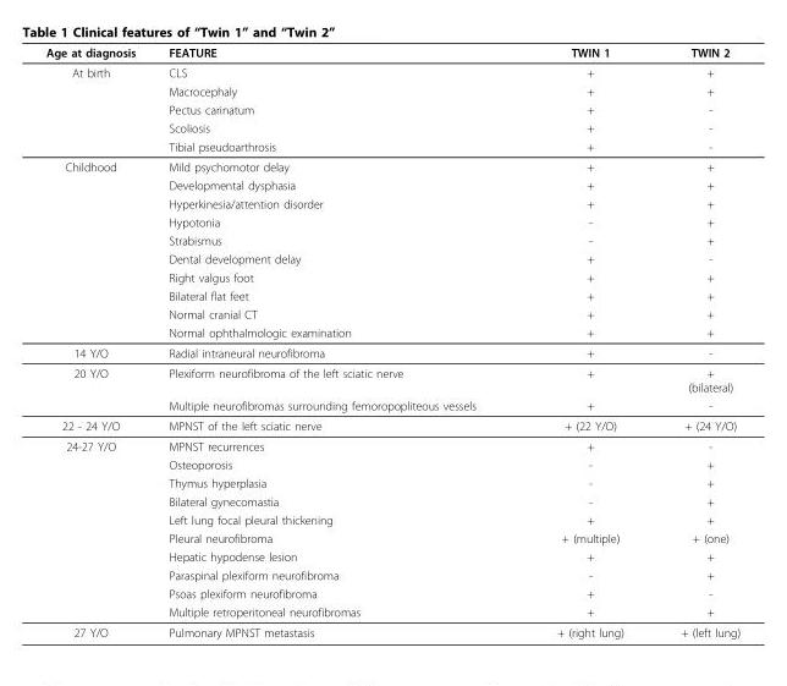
<table><thead><tr><td>Age at diagnosis</td><td>FEATURE</td><td>TWIN 1</td><td>TWIN 2</td></tr></thead><tbody><tr><td rowspan="5">At birth</td><td>CLS</td><td>+</td><td>+</td></tr><tr><td>Macrocephaly</td><td>+</td><td>+</td></tr><tr><td>Pectus carinatum</td><td>+</td><td>-</td></tr><tr><td>Scoliosis</td><td>+</td><td>-</td></tr><tr><td>Tibial pseudoarthrosis</td><td>+</td><td>-</td></tr><tr><td rowspan="10">Childhood</td><td>Mild psychomotor delay</td><td>+</td><td>+</td></tr><tr><td>Developmental dysphasia</td><td>+</td><td>+</td></tr><tr><td>Hyperkinesia/attention disorder</td><td>+</td><td>+</td></tr><tr><td>Hypotonia</td><td>-</td><td>+</td></tr><tr><td>Strabismus</td><td>-</td><td>+</td></tr><tr><td>Dental development delay</td><td>+</td><td>-</td></tr><tr><td>Right valgus foot</td><td>+</td><td>+</td></tr><tr><td>Bilateral flat feet</td><td>+</td><td>+</td></tr><tr><td>Normal cranial CT</td><td>+</td><td>+</td></tr><tr><td>Normal ophthalmologic examination</td><td>+</td><td>+</td></tr><tr><td>14 Y/O</td><td>Radial intraneural neurofibroma</td><td>+</td><td>-</td></tr><tr><td rowspan="2">20 Y/O</td><td>Plexiform neurofibroma of the left sciatic nerve</td><td>+</td><td>+ (bilateral)</td></tr><tr><td>Multiple neurofibromas surrounding femoropopliteous vessels</td><td>+</td><td>-</td></tr><tr><td>22 - 24 Y/O</td><td>MPNST of the left sciatic nerve</td><td>+ (22 Y/O)</td><td>+ (24 Y/O)</td></tr><tr><td rowspan="10">24-27 Y/O</td><td>MPNST recurrences</td><td>+</td><td>-</td></tr><tr><td>Osteoporosis</td><td>-</td><td>+</td></tr><tr><td>Thymus hyperplasia</td><td>-</td><td>+</td></tr><tr><td>Bilateral gynecomastia</td><td>-</td><td>+</td></tr><tr><td>Left lung focal pleural thickening</td><td>+</td><td>+</td></tr><tr><td>Pleural neurofibroma</td><td>+ (multiple)</td><td>+ (one)</td></tr><tr><td>Hepatic hypodense lesion</td><td>+</td><td>+</td></tr><tr><td>Paraspinal plexiform neurofibroma</td><td>-</td><td>+</td></tr><tr><td>Psoas plexiform neurofibroma</td><td>+</td><td>-</td></tr><tr><td>Multiple retroperitoneal neurofibromas</td><td>+</td><td>+</td></tr><tr><td>27 Y/O</td><td>Pulmonary MPNST metastasis</td><td>+ (right lung)</td><td>+ (left lung)</td></tr></tbody></table>